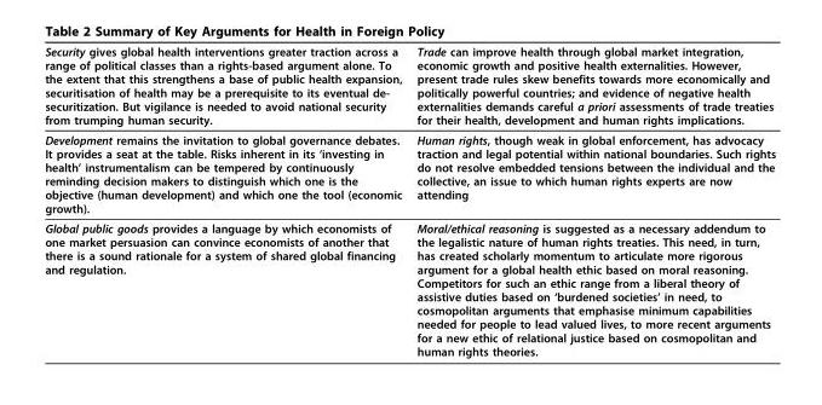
<table><thead><tr><td>Security gives global health interventions greater traction across a range of political classes than a rights-based argument alone. To the extent that this strengthens a base of public health expansion, securitisation of health may be a prerequisite to its eventual de- securitization. But vigilance is needed to avoid national security from trumping human security.</td><td>Trade can improve health through global market integration, economic growth and positive health externalities. However, present trade rules skew benefits towards more economically and politically powerful countries; and evidence of negative health externalities demands careful a priori assessments of trade treaties for their health, development and human rights implications.</td></tr></thead><tbody><tr><td>Development remains the invitation to global governance debates. It provides a seat at the table. Risks inherent in its ‘investing in health’ instrumentalism can be tempered by continuously reminding decision makers to distinguish which one is the objective (human development) and which one the tool (economic growth).</td><td>Human rights, though weak in global enforcement, has advocacy traction and legal potential within national boundaries. Such rights do not resolve embedded tensions between the individual and the collective, an issue to which human rights experts are now attending</td></tr><tr><td>Global public goods provides a language by which economists of one market persuasion can convince economists of another that there is a sound rationale for a system of shared global financing and regulation.</td><td>Moral/ethical reasoning is suggested as a necessary addendum to the legalistic nature of human rights treaties. This need, in turn, has created scholarly momentum to articulate more rigorous argument for a global health ethic based on moral reasoning. Competitors for such an ethic range from a liberal theory of assistive duties based on ‘burdened societies’ in need, to cosmopolitan arguments that emphasise minimum capabilities needed for people to lead valued lives, to more recent arguments for a new ethic of relational justice based on cosmopolitan and human rights theories.</td></tr></tbody></table>